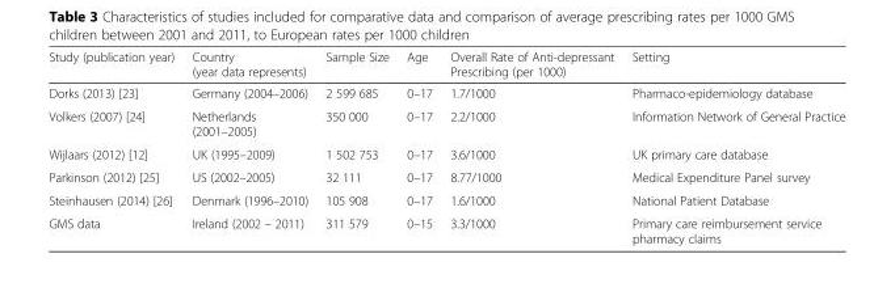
<table><thead><tr><td>Study (publication year)</td><td>Country (year data represents)</td><td>Sample Size</td><td>Age</td><td>Overall Rate of Anti-depressant Prescribing (per 1000)</td><td>Setting</td></tr></thead><tbody><tr><td>Dorks (2013) [23]</td><td>Germany (2004–2006)</td><td>2 599 685</td><td>0–17</td><td>1.7/1000</td><td>Pharmaco-epidemiology database</td></tr><tr><td>Volkers (2007) [24]</td><td>Netherlands (2001–2005)</td><td>350 000</td><td>0–17</td><td>2.2/1000</td><td>Information Network of General Practice</td></tr><tr><td>Wijlaars (2012) [12]</td><td>UK (1995–2009)</td><td>1 502 753</td><td>0–17</td><td>3.6/1000</td><td>UK primary care database</td></tr><tr><td>Parkinson (2012) [25]</td><td>US (2002–2005)</td><td>32 111</td><td>0–17</td><td>8.77/1000</td><td>Medical Expenditure Panel survey</td></tr><tr><td>Steinhausen (2014) [26]</td><td>Denmark (1996–2010)</td><td>105 908</td><td>0–17</td><td>1.6/1000</td><td>National Patient Database</td></tr><tr><td>GMS data</td><td>Ireland (2002 – 2011)</td><td>311 579</td><td>0–15</td><td>3.3/1000</td><td>Primary care reimbursement service pharmacy claims</td></tr></tbody></table>